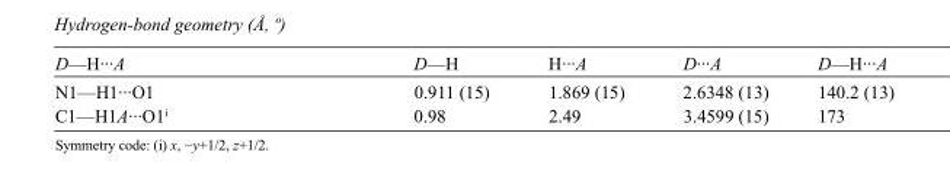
<table><tbody><tr><td>D—H···A</td><td>D—H</td><td>H···A</td><td>D···A</td><td>D—H···A</td></tr><tr><td>N1—H1···O1</td><td>0.911 (15)</td><td>1.869 (15)</td><td>2.6348 (13)</td><td>140.2 (13)</td></tr><tr><td>C1—H1A···O1<sup>i</sup></td><td>0.98</td><td>2.49</td><td>3.4599 (15)</td><td>173</td></tr></tbody></table>